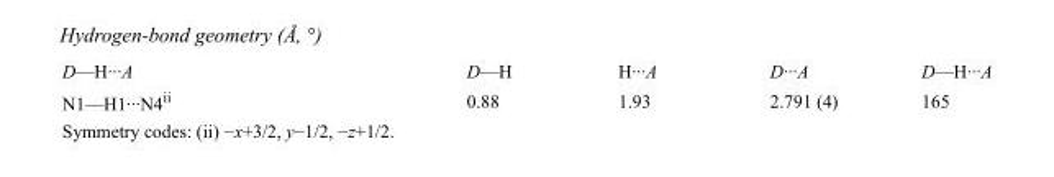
<table><tbody><tr><td>D—H···A</td><td>D—H</td><td>H···A</td><td>D···A</td><td>D—H···A</td></tr><tr><td>N1—H1···N4<sup>ii</sup></td><td>0.88</td><td>1.93</td><td>2.791 (4)</td><td>165</td></tr></tbody></table>